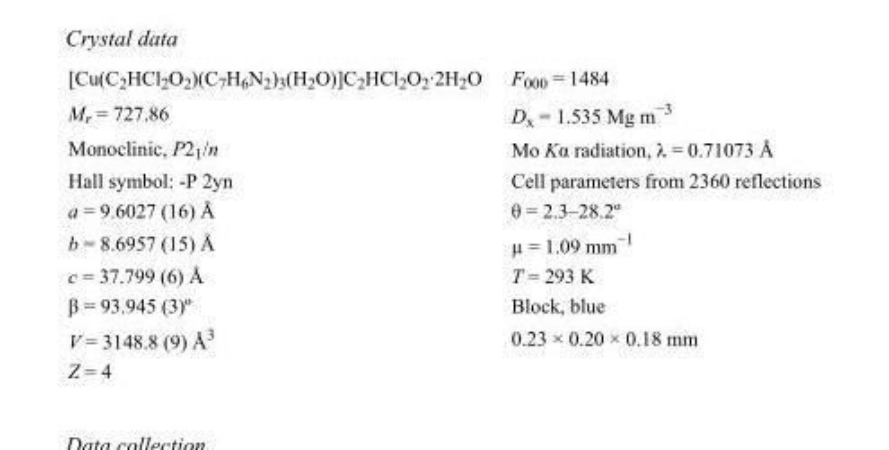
<table><tbody><tr><td>[Cu(C<sub>2</sub>HCl<sub>2</sub>O<sub>2</sub>)(C<sub>7</sub>H<sub>6</sub>N<sub>2</sub>)<sub>3</sub>(H<sub>2</sub>O)]C<sub>2</sub>HCl<sub>2</sub>O<sub>2</sub>·2H<sub>2</sub>O</td><td>F000 = 1484</td></tr><tr><td>M<sub>r</sub> = 727.86</td><td>D<sub>x</sub> = 1.535 Mg m<sup>−3</sup></td></tr><tr><td>Monoclinic, P2<sub>1</sub>/n</td><td>Mo Kα radiation, λ = 0.71073 Å</td></tr><tr><td>Hall symbol: -P 2yn</td><td>Cell parameters from 2360 reflections</td></tr><tr><td>a = 9.6027 (16) Å</td><td>θ = 2.3–28.2º</td></tr><tr><td>b = 8.6957 (15) Å</td><td>µ = 1.09 mm<sup>−1</sup></td></tr><tr><td>c = 37.799 (6) Å</td><td>T = 293 K</td></tr><tr><td>β = 93.945 (3)º</td><td>Block, blue</td></tr><tr><td>V = 3148.8 (9) Å<sup>3</sup></td><td>0.23 × 0.20 × 0.18 mm</td></tr><tr><td>Z = 4</td><td></td></tr></tbody></table>